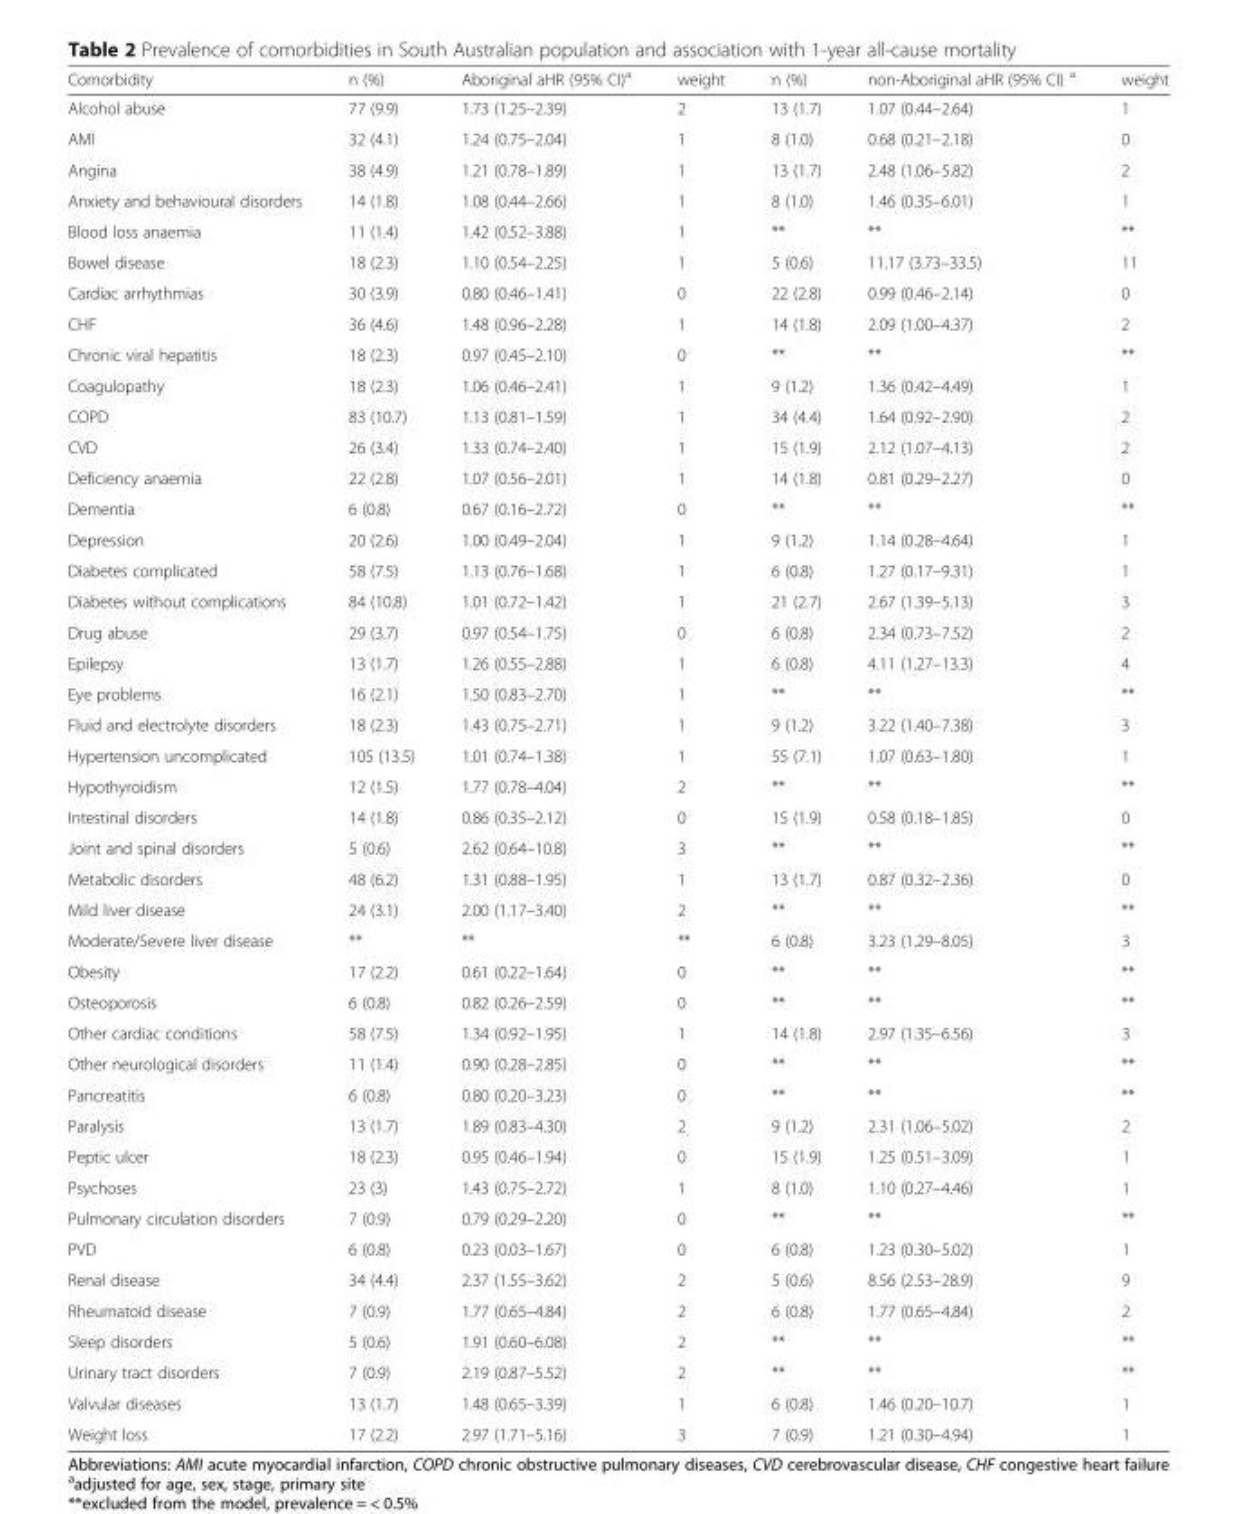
<table><thead><tr><td>Comorbidity</td><td>n (%)</td><td>Aboriginal aHR (95% CI)<sup>a</sup></td><td>weight</td><td>n (%)</td><td>non-Aboriginal aHR (95% CI) <sup>a</sup></td><td>weight</td></tr></thead><tbody><tr><td>Alcohol abuse</td><td>77 (9.9)</td><td>1.73 (1.25–2.39)</td><td>2</td><td>13 (1.7)</td><td>1.07 (0.44–2.64)</td><td>1</td></tr><tr><td>AMI</td><td>32 (4.1)</td><td>1.24 (0.75–2.04)</td><td>1</td><td>8 (1.0)</td><td>0.68 (0.21–2.18)</td><td>0</td></tr><tr><td>Angina</td><td>38 (4.9)</td><td>1.21 (0.78–1.89)</td><td>1</td><td>13 (1.7)</td><td>2.48 (1.06–5.82)</td><td>2</td></tr><tr><td>Anxiety and behavioural disorders</td><td>14 (1.8)</td><td>1.08 (0.44–2.66)</td><td>1</td><td>8 (1.0)</td><td>1.46 (0.35–6.01)</td><td>1</td></tr><tr><td>Blood loss anaemia</td><td>11 (1.4)</td><td>1.42 (0.52–3.88)</td><td>1</td><td>**</td><td>**</td><td>**</td></tr><tr><td>Bowel disease</td><td>18 (2.3)</td><td>1.10 (0.54–2.25)</td><td>1</td><td>5 (0.6)</td><td>11.17 (3.73–33.5)</td><td>11</td></tr><tr><td>Cardiac arrhythmias</td><td>30 (3.9)</td><td>0.80 (0.46–1.41)</td><td>0</td><td>22 (2.8)</td><td>0.99 (0.46–2.14)</td><td>0</td></tr><tr><td>CHF</td><td>36 (4.6)</td><td>1.48 (0.96–2.28)</td><td>1</td><td>14 (1.8)</td><td>2.09 (1.00–4.37)</td><td>2</td></tr><tr><td>Chronic viral hepatitis</td><td>18 (2.3)</td><td>0.97 (0.45–2.10)</td><td>0</td><td>**</td><td>**</td><td>**</td></tr><tr><td>Coagulopathy</td><td>18 (2.3)</td><td>1.06 (0.46–2.41)</td><td>1</td><td>9 (1.2)</td><td>1.36 (0.42–4.49)</td><td>1</td></tr><tr><td>COPD</td><td>83 (10.7)</td><td>1.13 (0.81–1.59)</td><td>1</td><td>34 (4.4)</td><td>1.64 (0.92–2.90)</td><td>2</td></tr><tr><td>CVD</td><td>26 (3.4)</td><td>1.33 (0.74–2.40)</td><td>1</td><td>15 (1.9)</td><td>2.12 (1.07–4.13)</td><td>2</td></tr><tr><td>Deficiency anaemia</td><td>22 (2.8)</td><td>1.07 (0.56–2.01)</td><td>1</td><td>14 (1.8)</td><td>0.81 (0.29–2.27)</td><td>0</td></tr><tr><td>Dementia</td><td>6 (0.8)</td><td>0.67 (0.16–2.72)</td><td>0</td><td>**</td><td>**</td><td>**</td></tr><tr><td>Depression</td><td>20 (2.6)</td><td>1.00 (0.49–2.04)</td><td>1</td><td>9 (1.2)</td><td>1.14 (0.28–4.64)</td><td>1</td></tr><tr><td>Diabetes complicated</td><td>58 (7.5)</td><td>1.13 (0.76–1.68)</td><td>1</td><td>6 (0.8)</td><td>1.27 (0.17–9.31)</td><td>1</td></tr><tr><td>Diabetes without complications</td><td>84 (10.8)</td><td>1.01 (0.72–1.42)</td><td>1</td><td>21 (2.7)</td><td>2.67 (1.39–5.13)</td><td>3</td></tr><tr><td>Drug abuse</td><td>29 (3.7)</td><td>0.97 (0.54–1.75)</td><td>0</td><td>6 (0.8)</td><td>2.34 (0.73–7.52)</td><td>2</td></tr><tr><td>Epilepsy</td><td>13 (1.7)</td><td>1.26 (0.55–2.88)</td><td>1</td><td>6 (0.8)</td><td>4.11 (1.27–13.3)</td><td>4</td></tr><tr><td>Eye problems</td><td>16 (2.1)</td><td>1.50 (0.83–2.70)</td><td>1</td><td>**</td><td>**</td><td>**</td></tr><tr><td>Fluid and electrolyte disorders</td><td>18 (2.3)</td><td>1.43 (0.75–2.71)</td><td>1</td><td>9 (1.2)</td><td>3.22 (1.40–7.38)</td><td>3</td></tr><tr><td>Hypertension uncomplicated</td><td>105 (13.5)</td><td>1.01 (0.74–1.38)</td><td>1</td><td>55 (7.1)</td><td>1.07 (0.63–1.80)</td><td>1</td></tr><tr><td>Hypothyroidism</td><td>12 (1.5)</td><td>1.77 (0.78–4.04)</td><td>2</td><td>**</td><td>**</td><td>**</td></tr><tr><td>Intestinal disorders</td><td>14 (1.8)</td><td>0.86 (0.35–2.12)</td><td>0</td><td>15 (1.9)</td><td>0.58 (0.18–1.85)</td><td>0</td></tr><tr><td>Joint and spinal disorders</td><td>5 (0.6)</td><td>2.62 (0.64–10.8)</td><td>3</td><td>**</td><td>**</td><td>**</td></tr><tr><td>Metabolic disorders</td><td>48 (6.2)</td><td>1.31 (0.88–1.95)</td><td>1</td><td>13 (1.7)</td><td>0.87 (0.32–2.36)</td><td>0</td></tr><tr><td>Mild liver disease</td><td>24 (3.1)</td><td>2.00 (1.17–3.40)</td><td>2</td><td>**</td><td>**</td><td>**</td></tr><tr><td>Moderate/Severe liver disease</td><td>**</td><td>**</td><td>**</td><td>6 (0.8)</td><td>3.23 (1.29–8.05)</td><td>3</td></tr><tr><td>Obesity</td><td>17 (2.2)</td><td>0.61 (0.22–1.64)</td><td>0</td><td>**</td><td>**</td><td>**</td></tr><tr><td>Osteoporosis</td><td>6 (0.8)</td><td>0.82 (0.26–2.59)</td><td>0</td><td>**</td><td>**</td><td>**</td></tr><tr><td>Other cardiac conditions</td><td>58 (7.5)</td><td>1.34 (0.92–1.95)</td><td>1</td><td>14 (1.8)</td><td>2.97 (1.35–6.56)</td><td>3</td></tr><tr><td>Other neurological disorders</td><td>11 (1.4)</td><td>0.90 (0.28–2.85)</td><td>0</td><td>**</td><td>**</td><td>**</td></tr><tr><td>Pancreatitis</td><td>6 (0.8)</td><td>0.80 (0.20–3.23)</td><td>0</td><td>**</td><td>**</td><td>**</td></tr><tr><td>Paralysis</td><td>13 (1.7)</td><td>1.89 (0.83–4.30)</td><td>2</td><td>9 (1.2)</td><td>2.31 (1.06–5.02)</td><td>2</td></tr><tr><td>Peptic ulcer</td><td>18 (2.3)</td><td>0.95 (0.46–1.94)</td><td>0</td><td>15 (1.9)</td><td>1.25 (0.51–3.09)</td><td>1</td></tr><tr><td>Psychoses</td><td>23 (3)</td><td>1.43 (0.75–2.72)</td><td>1</td><td>8 (1.0)</td><td>1.10 (0.27–4.46)</td><td>1</td></tr><tr><td>Pulmonary circulation disorders</td><td>7 (0.9)</td><td>0.79 (0.29–2.20)</td><td>0</td><td>**</td><td>**</td><td>**</td></tr><tr><td>PVD</td><td>6 (0.8)</td><td>0.23 (0.03–1.67)</td><td>0</td><td>6 (0.8)</td><td>1.23 (0.30–5.02)</td><td>1</td></tr><tr><td>Renal disease</td><td>34 (4.4)</td><td>2.37 (1.55–3.62)</td><td>2</td><td>5 (0.6)</td><td>8.56 (2.53–28.9)</td><td>9</td></tr><tr><td>Rheumatoid disease</td><td>7 (0.9)</td><td>1.77 (0.65–4.84)</td><td>2</td><td>6 (0.8)</td><td>1.77 (0.65–4.84)</td><td>2</td></tr><tr><td>Sleep disorders</td><td>5 (0.6)</td><td>1.91 (0.60–6.08)</td><td>2</td><td>**</td><td>**</td><td>**</td></tr><tr><td>Urinary tract disorders</td><td>7 (0.9)</td><td>2.19 (0.87–5.52)</td><td>2</td><td>**</td><td>**</td><td>**</td></tr><tr><td>Valvular diseases</td><td>13 (1.7)</td><td>1.48 (0.65–3.39)</td><td>1</td><td>6 (0.8)</td><td>1.46 (0.20–10.7)</td><td>1</td></tr><tr><td>Weight loss</td><td>17 (2.2)</td><td>2.97 (1.71–5.16)</td><td>3</td><td>7 (0.9)</td><td>1.21 (0.30–4.94)</td><td>1</td></tr></tbody></table>